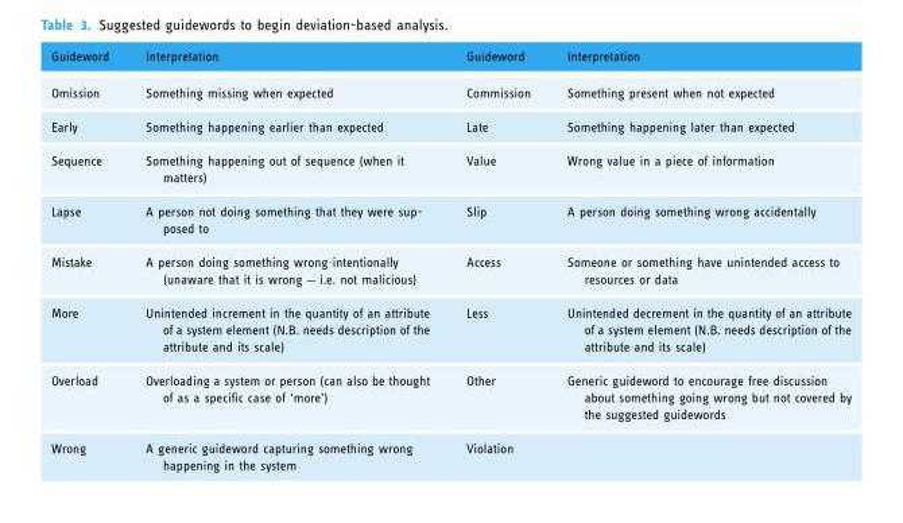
<table><thead><tr><td>Guideword</td><td>Interpretation</td><td>Guideword</td><td>Interpretation</td></tr></thead><tbody><tr><td>Omission</td><td>Something missing when expected</td><td>Commission</td><td>Something present when not expected</td></tr><tr><td>Early</td><td>Something happening earlier than expected</td><td>Late</td><td>Something happening later than expected</td></tr><tr><td>Sequence</td><td>Something happening out of sequence (when it matters)</td><td>Value</td><td>Wrong value in a piece of information</td></tr><tr><td>Lapse</td><td>A person not doing something that they were sup- posed to</td><td>Slip</td><td>A person doing something wrong accidentally</td></tr><tr><td>Mistake</td><td>A person doing something wrong intentionally (unaware that it is wrong – i.e. not malicious)</td><td>Access</td><td>Someone or something have unintended access to resources or data</td></tr><tr><td>More</td><td>Unintended increment in the quantity of an attribute of a system element (N.B. needs description of the attribute and its scale)</td><td>Less</td><td>Unintended decrement in the quantity of an attribute of a system element (N.B. needs description of the attribute and its scale)</td></tr><tr><td>Overload</td><td>Overloading a system or person (can also be thought of as a specific case of ‘more’)</td><td>Other</td><td>Generic guideword to encourage free discussion about something going wrong but not covered by the suggested guidewords</td></tr><tr><td>Wrong</td><td>A generic guideword capturing something wrong happening in the system</td><td>Violation</td><td></td></tr></tbody></table>